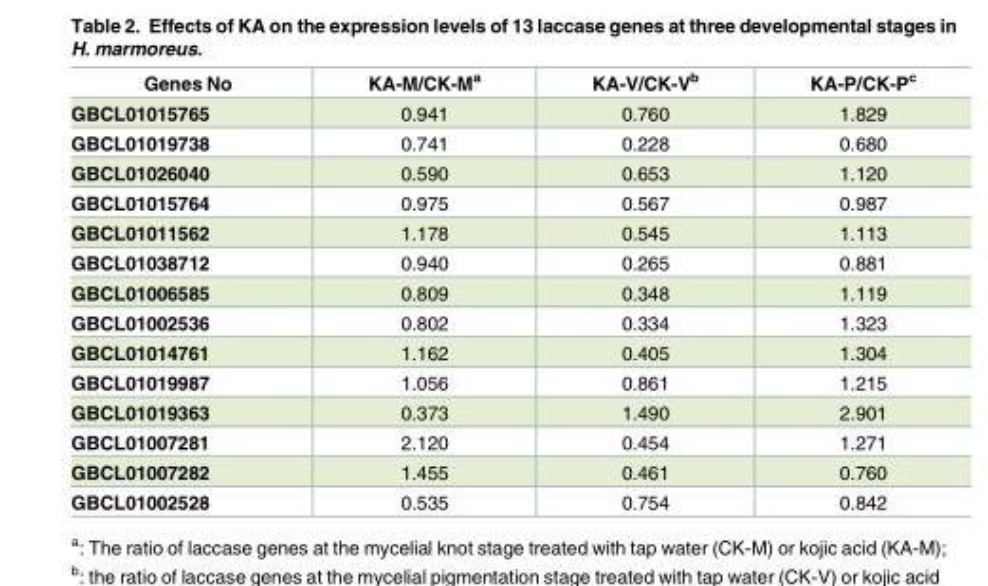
<table><thead><tr><td>Genes No</td><td>KA-M/CK-M<sup>a</sup></td><td>KA-V/CK-V<sup>b</sup></td><td>KA-P/CK-P<sup>c</sup></td></tr></thead><tbody><tr><td>GBCL01015765</td><td>0.941</td><td>0.760</td><td>1.829</td></tr><tr><td>GBCL01019738</td><td>0.741</td><td>0.228</td><td>0.680</td></tr><tr><td>GBCL01026040</td><td>0.590</td><td>0.653</td><td>1.120</td></tr><tr><td>GBCL01015764</td><td>0.975</td><td>0.567</td><td>0.987</td></tr><tr><td>GBCL01011562</td><td>1.178</td><td>0.545</td><td>1.113</td></tr><tr><td>GBCL01038712</td><td>0.940</td><td>0.265</td><td>0.881</td></tr><tr><td>GBCL01006585</td><td>0.809</td><td>0.348</td><td>1.119</td></tr><tr><td>GBCL01002536</td><td>0.802</td><td>0.334</td><td>1.323</td></tr><tr><td>GBCL01014761</td><td>1.162</td><td>0.405</td><td>1.304</td></tr><tr><td>GBCL01019987</td><td>1.056</td><td>0.861</td><td>1.215</td></tr><tr><td>GBCL01019363</td><td>0.373</td><td>1.490</td><td>2.901</td></tr><tr><td>GBCL01007281</td><td>2.120</td><td>0.454</td><td>1.271</td></tr><tr><td>GBCL01007282</td><td>1.455</td><td>0.461</td><td>0.760</td></tr><tr><td>GBCL01002528</td><td>0.535</td><td>0.754</td><td>0.842</td></tr></tbody></table>